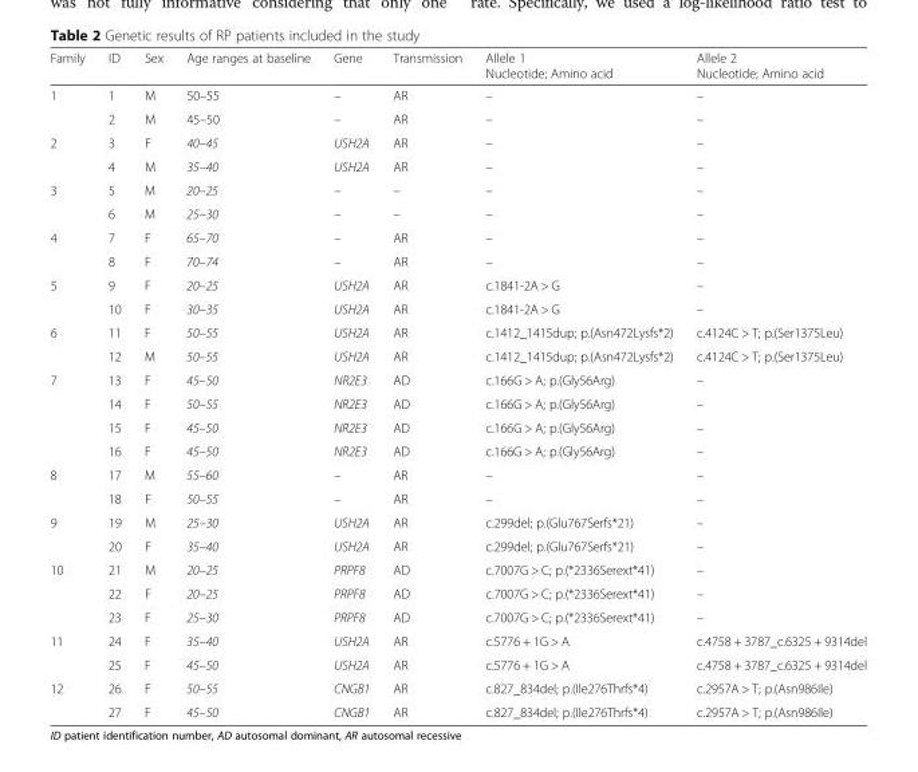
<table><thead><tr><td>Family</td><td>ID</td><td>Sex</td><td>Age ranges at baseline</td><td>Gene</td><td>Transmission</td><td>Allele 1 Nucleotide; Amino acid</td><td>Allele 2 Nucleotide; Amino acid</td></tr></thead><tbody><tr><td rowspan="2">1</td><td>1</td><td>M</td><td>50–55</td><td>–</td><td>AR</td><td>–</td><td>–</td></tr><tr><td>2</td><td>M</td><td>45–50</td><td>–</td><td>AR</td><td>–</td><td>–</td></tr><tr><td rowspan="2">2</td><td>3</td><td>F</td><td>40–45</td><td>USH2A</td><td>AR</td><td>–</td><td>–</td></tr><tr><td>4</td><td>M</td><td>35–40</td><td>USH2A</td><td>AR</td><td>–</td><td>–</td></tr><tr><td rowspan="2">3</td><td>5</td><td>M</td><td>20–25</td><td>–</td><td>–</td><td>–</td><td>–</td></tr><tr><td>6</td><td>M</td><td>25–30</td><td>–</td><td>–</td><td>–</td><td>–</td></tr><tr><td rowspan="2">4</td><td>7</td><td>F</td><td>65–70</td><td>–</td><td>AR</td><td>–</td><td>–</td></tr><tr><td>8</td><td>F</td><td>70–74</td><td>–</td><td>AR</td><td>–</td><td>–</td></tr><tr><td rowspan="2">5</td><td>9</td><td>F</td><td>20–25</td><td>USH2A</td><td>AR</td><td>c.1841-2A &gt; G</td><td>–</td></tr><tr><td>10</td><td>F</td><td>30–35</td><td>USH2A</td><td>AR</td><td>c.1841-2A &gt; G</td><td>–</td></tr><tr><td rowspan="2">6</td><td>11</td><td>F</td><td>50–55</td><td>USH2A</td><td>AR</td><td>c.1412_1415dup; p.(Asn472Lysfs*2)</td><td>c.4124C &gt; T; p.(Ser1375Leu)</td></tr><tr><td>12</td><td>M</td><td>50–55</td><td>USH2A</td><td>AR</td><td>c.1412_1415dup; p.(Asn472Lysfs*2)</td><td>c.4124C &gt; T; p.(Ser1375Leu)</td></tr><tr><td rowspan="4">7</td><td>13</td><td>F</td><td>45–50</td><td>NR2E3</td><td>AD</td><td>c.166G &gt; A; p.(Gly56Arg)</td><td>–</td></tr><tr><td>14</td><td>F</td><td>50–55</td><td>NR2E3</td><td>AD</td><td>c.166G &gt; A; p.(Gly56Arg)</td><td>–</td></tr><tr><td>15</td><td>F</td><td>45–50</td><td>NR2E3</td><td>AD</td><td>c.166G &gt; A; p.(Gly56Arg)</td><td>–</td></tr><tr><td>16</td><td>F</td><td>45–50</td><td>NR2E3</td><td>AD</td><td>c.166G &gt; A; p.(Gly56Arg)</td><td>–</td></tr><tr><td rowspan="2">8</td><td>17</td><td>M</td><td>55–60</td><td>–</td><td>AR</td><td>–</td><td>–</td></tr><tr><td>18</td><td>F</td><td>50–55</td><td>–</td><td>AR</td><td>–</td><td>–</td></tr><tr><td rowspan="2">9</td><td>19</td><td>M</td><td>25–30</td><td>USH2A</td><td>AR</td><td>c.299del; p.(Glu767Serfs*21)</td><td>–</td></tr><tr><td>20</td><td>F</td><td>35–40</td><td>USH2A</td><td>AR</td><td>c.299del; p.(Glu767Serfs*21)</td><td>–</td></tr><tr><td rowspan="3">10</td><td>21</td><td>M</td><td>20–25</td><td>PRPF8</td><td>AD</td><td>c.7007G &gt; C; p.(*2336Serext*41)</td><td>–</td></tr><tr><td>22</td><td>F</td><td>20–25</td><td>PRPF8</td><td>AD</td><td>c.7007G &gt; C; p.(*2336Serext*41)</td><td>–</td></tr><tr><td>23</td><td>F</td><td>25–30</td><td>PRPF8</td><td>AD</td><td>c.7007G &gt; C; p.(*2336Serext*41)</td><td>–</td></tr><tr><td rowspan="2">11</td><td>24</td><td>F</td><td>35–40</td><td>USH2A</td><td>AR</td><td>c.5776 + 1G &gt; A</td><td>c.4758 + 3787_c.6325 + 9314del</td></tr><tr><td>25</td><td>F</td><td>45–50</td><td>USH2A</td><td>AR</td><td>c.5776 + 1G &gt; A</td><td>c.4758 + 3787_c.6325 + 9314del</td></tr><tr><td rowspan="2">12</td><td>26</td><td>F</td><td>50–55</td><td>CNGB1</td><td>AR</td><td>c.827_834del; p.(Ile276Thrfs*4)</td><td>c.2957A &gt; T; p.(Asn986Ile)</td></tr><tr><td>27</td><td>F</td><td>45–50</td><td>CNGB1</td><td>AR</td><td>c.827_834del; p.(Ile276Thrfs*4)</td><td>c.2957A &gt; T; p.(Asn986Ile)</td></tr></tbody></table>